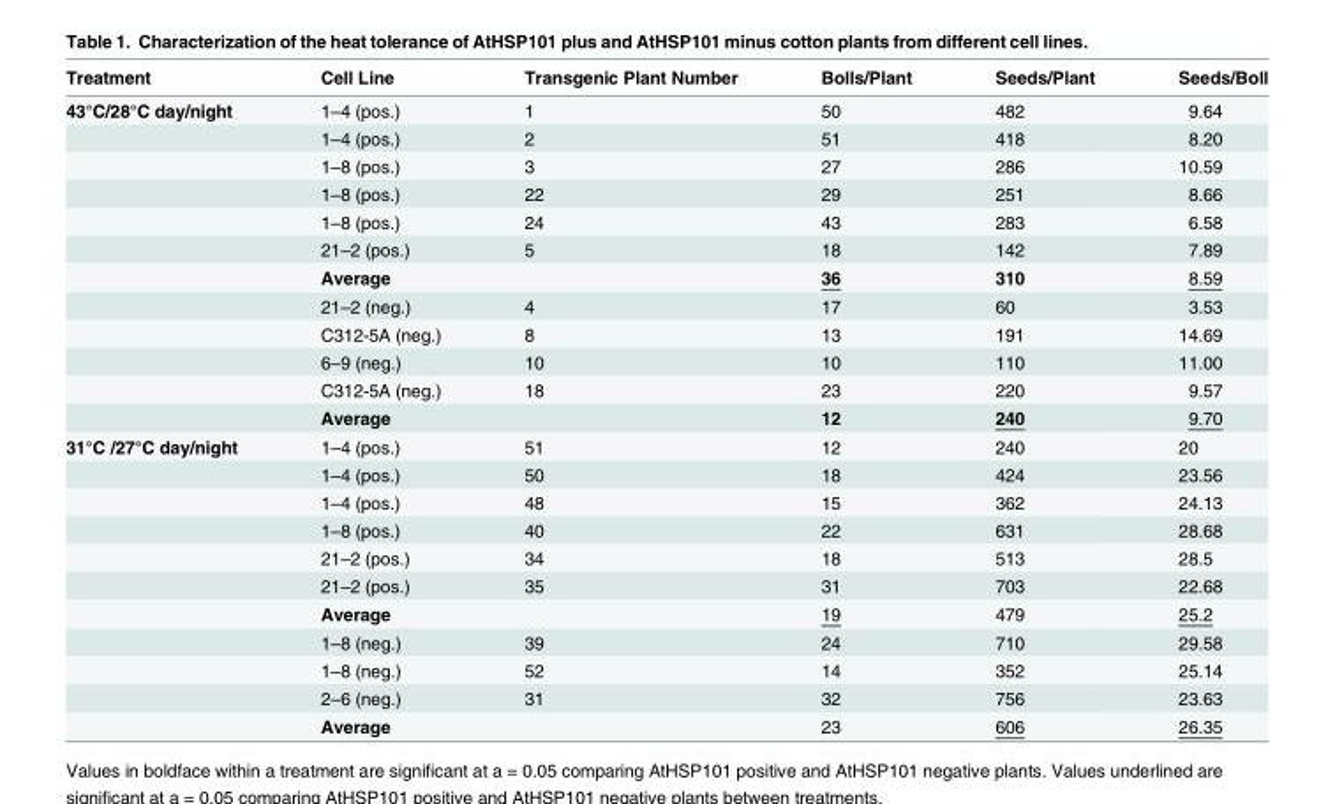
<table><thead><tr><td>Treatment</td><td>Cell Line</td><td>Transgenic Plant Number</td><td>Bolls/Plant</td><td>Seeds/Plant</td><td>Seeds/Boll</td></tr></thead><tbody><tr><td rowspan="12">43°C/28°C day/night</td><td>1–4 (pos.)</td><td>1</td><td>50</td><td>482</td><td>9.64</td></tr><tr><td>1–4 (pos.)</td><td>2</td><td>51</td><td>418</td><td>8.20</td></tr><tr><td>1–8 (pos.)</td><td>3</td><td>27</td><td>286</td><td>10.59</td></tr><tr><td>1–8 (pos.)</td><td>22</td><td>29</td><td>251</td><td>8.66</td></tr><tr><td>1–8 (pos.)</td><td>24</td><td>43</td><td>283</td><td>6.58</td></tr><tr><td>21–2 (pos.)</td><td>5</td><td>18</td><td>142</td><td>7.89</td></tr><tr><td>Average</td><td></td><td>36</td><td>310</td><td>8.59</td></tr><tr><td>21–2 (neg.)</td><td>4</td><td>17</td><td>60</td><td>3.53</td></tr><tr><td>C312-5A (neg.)</td><td>8</td><td>13</td><td>191</td><td>14.69</td></tr><tr><td>6–9 (neg.)</td><td>10</td><td>10</td><td>110</td><td>11.00</td></tr><tr><td>C312-5A (neg.)</td><td>18</td><td>23</td><td>220</td><td>9.57</td></tr><tr><td>Average</td><td></td><td>12</td><td>240</td><td>9.70</td></tr><tr><td rowspan="11">31°C /27°C day/night</td><td>1–4 (pos.)</td><td>51</td><td>12</td><td>240</td><td>20</td></tr><tr><td>1–4 (pos.)</td><td>50</td><td>18</td><td>424</td><td>23.56</td></tr><tr><td>1–4 (pos.)</td><td>48</td><td>15</td><td>362</td><td>24.13</td></tr><tr><td>1–8 (pos.)</td><td>40</td><td>22</td><td>631</td><td>28.68</td></tr><tr><td>21–2 (pos.)</td><td>34</td><td>18</td><td>513</td><td>28.5</td></tr><tr><td>21–2 (pos.)</td><td>35</td><td>31</td><td>703</td><td>22.68</td></tr><tr><td>Average</td><td></td><td>19</td><td>479</td><td>25.2</td></tr><tr><td>1–8 (neg.)</td><td>39</td><td>24</td><td>710</td><td>29.58</td></tr><tr><td>1–8 (neg.)</td><td>52</td><td>14</td><td>352</td><td>25.14</td></tr><tr><td>2–6 (neg.)</td><td>31</td><td>32</td><td>756</td><td>23.63</td></tr><tr><td>Average</td><td></td><td>23</td><td>606</td><td>26.35</td></tr></tbody></table>